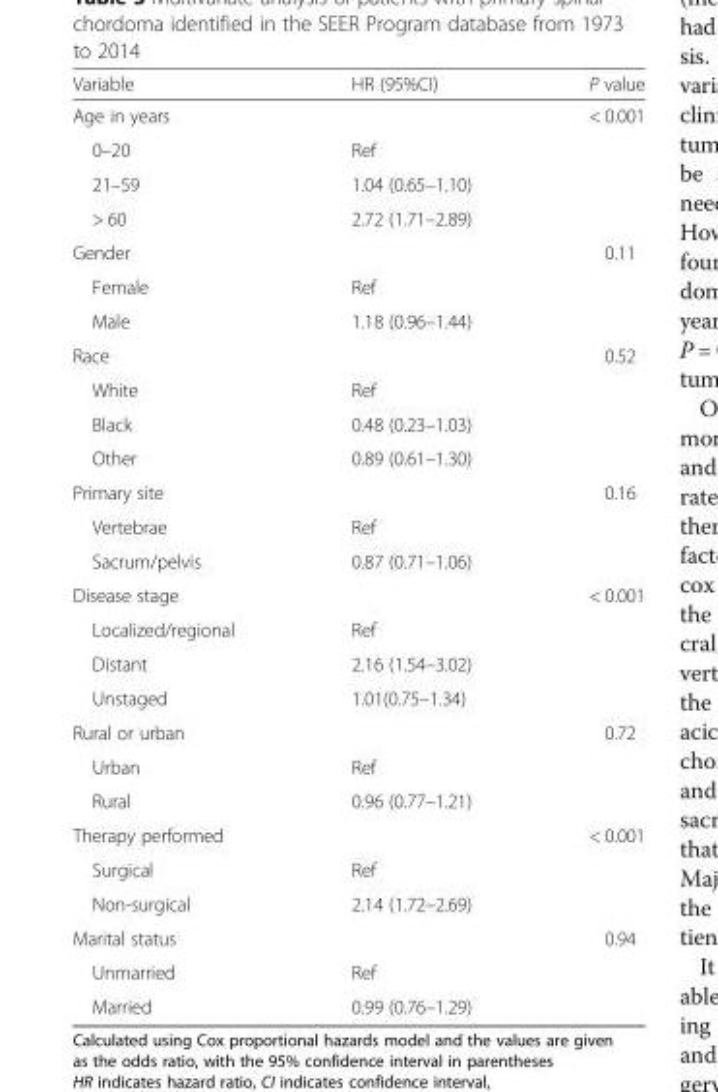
<table><thead><tr><td>Variable</td><td>HR (95%CI)</td><td>P value</td></tr></thead><tbody><tr><td>Age in years</td><td></td><td>&lt; 0.001</td></tr><tr><td>0–20</td><td>Ref</td><td></td></tr><tr><td>21–59</td><td>1.04 (0.65–1.10)</td><td></td></tr><tr><td>&gt; 60</td><td>2.72 (1.71–2.89)</td><td></td></tr><tr><td>Gender</td><td></td><td>0.11</td></tr><tr><td>Female</td><td>Ref</td><td></td></tr><tr><td>Male</td><td>1.18 (0.96–1.44)</td><td></td></tr><tr><td>Race</td><td></td><td>0.52</td></tr><tr><td>White</td><td>Ref</td><td></td></tr><tr><td>Black</td><td>0.48 (0.23–1.03)</td><td></td></tr><tr><td>Other</td><td>0.89 (0.61–1.30)</td><td></td></tr><tr><td>Primary site</td><td></td><td>0.16</td></tr><tr><td>Vertebrae</td><td>Ref</td><td></td></tr><tr><td>Sacrum/pelvis</td><td>0.87 (0.71–1.06)</td><td></td></tr><tr><td>Disease stage</td><td></td><td>&lt; 0.001</td></tr><tr><td>Localized/regional</td><td>Ref</td><td></td></tr><tr><td>Distant</td><td>2.16 (1.54–3.02)</td><td></td></tr><tr><td>Unstaged</td><td>1.01(0.75–1.34)</td><td></td></tr><tr><td>Rural or urban</td><td></td><td>0.72</td></tr><tr><td>Urban</td><td>Ref</td><td></td></tr><tr><td>Rural</td><td>0.96 (0.77–1.21)</td><td></td></tr><tr><td>Therapy performed</td><td></td><td>&lt; 0.001</td></tr><tr><td>Surgical</td><td>Ref</td><td></td></tr><tr><td>Non-surgical</td><td>2.14 (1.72–2.69)</td><td></td></tr><tr><td>Marital status</td><td></td><td>0.94</td></tr><tr><td>Unmarried</td><td>Ref</td><td></td></tr><tr><td>Married</td><td>0.99 (0.76–1.29)</td><td></td></tr></tbody></table>